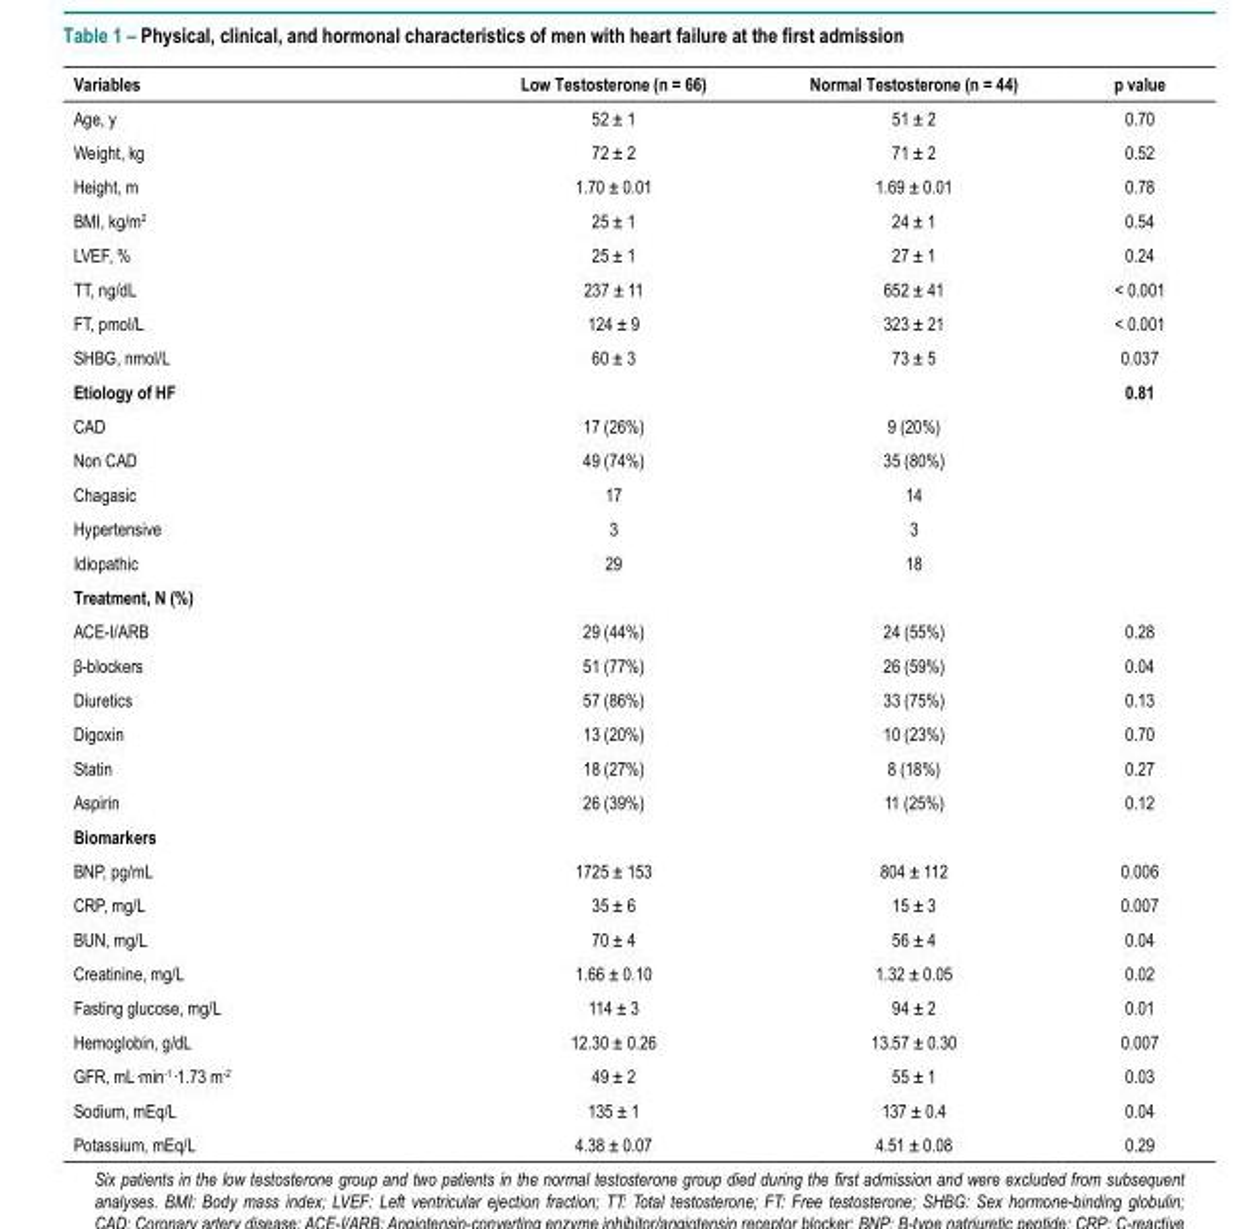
<table><thead><tr><td>Variables</td><td>Low Testosterone (n = 66)</td><td>Normal Testosterone (n = 44)</td><td>p value</td></tr></thead><tbody><tr><td>Age, y</td><td>52 ± 1</td><td>51 ± 2</td><td>0.70</td></tr><tr><td>Weight, kg</td><td>72 ± 2</td><td>71 ± 2</td><td>0.52</td></tr><tr><td>Height, m</td><td>1.70 ± 0.01</td><td>1.69 ± 0.01</td><td>0.78</td></tr><tr><td>BMI, kg/m<sup>2</sup></td><td>25 ± 1</td><td>24 ± 1</td><td>0.54</td></tr><tr><td>LVEF, %</td><td>25 ± 1</td><td>27 ± 1</td><td>0.24</td></tr><tr><td>TT, ng/dL</td><td>237 ± 11</td><td>652 ± 41</td><td>&lt; 0.001</td></tr><tr><td>FT, pmol/L</td><td>124 ± 9</td><td>323 ± 21</td><td>&lt; 0.001</td></tr><tr><td>SHBG, nmol/L</td><td>60 ± 3</td><td>73 ± 5</td><td>0.037</td></tr><tr><td>Etiology of HF</td><td></td><td></td><td>0.81</td></tr><tr><td>CAD</td><td>17 (26%)</td><td>9 (20%)</td><td></td></tr><tr><td>Non CAD</td><td>49 (74%)</td><td>35 (80%)</td><td></td></tr><tr><td>Chagasic</td><td>17</td><td>14</td><td></td></tr><tr><td>Hypertensive</td><td>3</td><td>3</td><td></td></tr><tr><td>Idiopathic</td><td>29</td><td>18</td><td></td></tr><tr><td colspan="4">Treatment, N (%)</td></tr><tr><td>ACE-I/ARB</td><td>29 (44%)</td><td>24 (55%)</td><td>0.28</td></tr><tr><td>β-blockers</td><td>51 (77%)</td><td>26 (59%)</td><td>0.04</td></tr><tr><td>Diuretics</td><td>57 (86%)</td><td>33 (75%)</td><td>0.13</td></tr><tr><td>Digoxin</td><td>13 (20%)</td><td>10 (23%)</td><td>0.70</td></tr><tr><td>Statin</td><td>18 (27%)</td><td>8 (18%)</td><td>0.27</td></tr><tr><td>Aspirin</td><td>26 (39%)</td><td>11 (25%)</td><td>0.12</td></tr><tr><td colspan="4">Biomarkers</td></tr><tr><td>BNP, pg/mL</td><td>1725 ± 153</td><td>804 ± 112</td><td>0.006</td></tr><tr><td>CRP, mg/L</td><td>35 ± 6</td><td>15 ± 3</td><td>0.007</td></tr><tr><td>BUN, mg/L</td><td>70 ± 4</td><td>56 ± 4</td><td>0.04</td></tr><tr><td>Creatinine, mg/L</td><td>1.66 ± 0.10</td><td>1.32 ± 0.05</td><td>0.02</td></tr><tr><td>Fasting glucose, mg/L</td><td>114 ± 3</td><td>94 ± 2</td><td>0.01</td></tr><tr><td>Hemoglobin, g/dL</td><td>12.30 ± 0.26</td><td>13.57 ± 0.30</td><td>0.007</td></tr><tr><td>GFR, mL·min-1·1.73 m-2</td><td>49 ± 2</td><td>55 ± 1</td><td>0.03</td></tr><tr><td>Sodium, mEq/L</td><td>135 ± 1</td><td>137 ± 0.4</td><td>0.04</td></tr><tr><td>Potassium, mEq/L</td><td>4.38 ± 0.07</td><td>4.51 ± 0.08</td><td>0.29</td></tr></tbody></table>